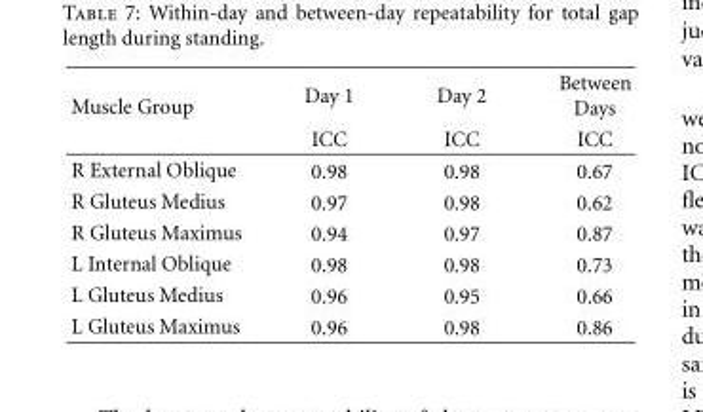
<table><thead><tr><td rowspan="2">Muscle Group</td><td rowspan="2">Day 1 ICC</td><td rowspan="2">Day 2 ICC</td><td rowspan="2">Between Days ICC</td></tr><tr></tr></thead><tbody><tr><td>R External Oblique</td><td>0.98</td><td>0.98</td><td>0.67</td></tr><tr><td>R Gluteus Medius</td><td>0.97</td><td>0.98</td><td>0.62</td></tr><tr><td>R Gluteus Maximus</td><td>0.94</td><td>0.97</td><td>0.87</td></tr><tr><td>L Internal Oblique</td><td>0.98</td><td>0.98</td><td>0.73</td></tr><tr><td>L Gluteus Medius</td><td>0.96</td><td>0.95</td><td>0.66</td></tr><tr><td>L Gluteus Maximus</td><td>0.96</td><td>0.98</td><td>0.86</td></tr></tbody></table>